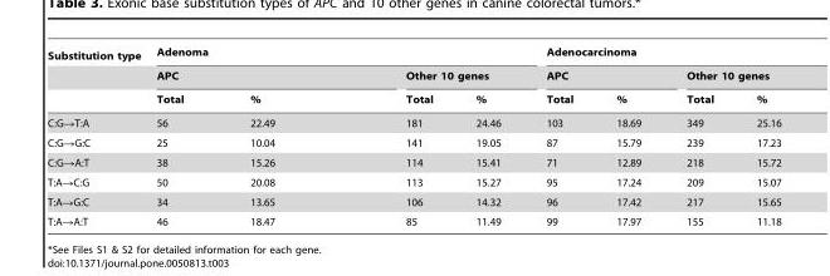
<table><thead><tr><td rowspan="3">Substitution type</td><td colspan="4">Adenoma</td><td colspan="4">Adenocarcinoma</td></tr><tr><td colspan="2">APC</td><td colspan="2">Other 10 genes</td><td colspan="2">APC</td><td colspan="2">Other 10 genes</td></tr><tr><td>Total</td><td>%</td><td>Total</td><td>%</td><td>Total</td><td>%</td><td>Total</td><td>%</td></tr></thead><tbody><tr><td>C:G→T:A</td><td>56</td><td>22.49</td><td>181</td><td>24.46</td><td>103</td><td>18.69</td><td>349</td><td>25.16</td></tr><tr><td>C:G→G:C</td><td>25</td><td>10.04</td><td>141</td><td>19.05</td><td>87</td><td>15.79</td><td>239</td><td>17.23</td></tr><tr><td>C:G→A:T</td><td>38</td><td>15.26</td><td>114</td><td>15.41</td><td>71</td><td>12.89</td><td>218</td><td>15.72</td></tr><tr><td>T:A→C:G</td><td>50</td><td>20.08</td><td>113</td><td>15.27</td><td>95</td><td>17.24</td><td>209</td><td>15.07</td></tr><tr><td>T:A→G:C</td><td>34</td><td>13.65</td><td>106</td><td>14.32</td><td>96</td><td>17.42</td><td>217</td><td>15.65</td></tr><tr><td>T:A→A:T</td><td>46</td><td>18.47</td><td>85</td><td>11.49</td><td>99</td><td>17.97</td><td>155</td><td>11.18</td></tr></tbody></table>